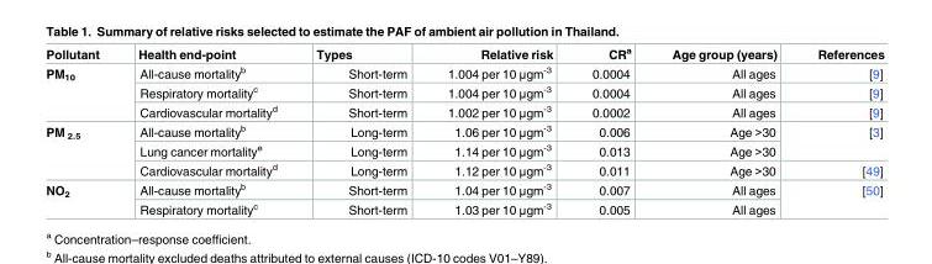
<table><thead><tr><td>Pollutant</td><td>Health end-point</td><td>Types</td><td>Relative risk</td><td>CR<sup>a</sup></td><td>Age group (years)</td><td>References</td></tr></thead><tbody><tr><td rowspan="3">PM<sub>10</sub></td><td>All-cause mortality<sup>b</sup></td><td>Short-term</td><td>1.004 per 10 μgm<sup>-3</sup></td><td>0.0004</td><td>All ages</td><td>[9]</td></tr><tr><td>Respiratory mortality<sup>c</sup></td><td>Short-term</td><td>1.004 per 10 μgm<sup>-3</sup></td><td>0.0004</td><td>All ages</td><td>[9]</td></tr><tr><td>Cardiovascular mortality<sup>d</sup></td><td>Short-term</td><td>1.002 per 10 μgm<sup>-3</sup></td><td>0.0002</td><td>All ages</td><td>[9]</td></tr><tr><td rowspan="3">PM <sub>2.5</sub></td><td>All-cause mortality<sup>b</sup></td><td>Long-term</td><td>1.06 per 10 μgm<sup>-3</sup></td><td>0.006</td><td>Age &gt;30</td><td rowspan="2">[3]</td></tr><tr><td>Lung cancer mortality<sup>e</sup></td><td>Long-term</td><td>1.14 per 10 μgm<sup>-3</sup></td><td>0.013</td><td>Age &gt;30</td></tr><tr><td>Cardiovascular mortality<sup>d</sup></td><td>Long-term</td><td>1.12 per 10 μgm<sup>-3</sup></td><td>0.011</td><td>Age &gt;30</td><td>[49]</td></tr><tr><td rowspan="2">NO<sub>2</sub></td><td>All-cause mortality<sup>b</sup></td><td>Short-term</td><td>1.04 per 10 μgm<sup>-3</sup></td><td>0.007</td><td>All ages</td><td rowspan="2">[50]</td></tr><tr><td>Respiratory mortality<sup>c</sup></td><td>Short-term</td><td>1.03 per 10 μgm<sup>-3</sup></td><td>0.005</td><td>All ages</td></tr></tbody></table>